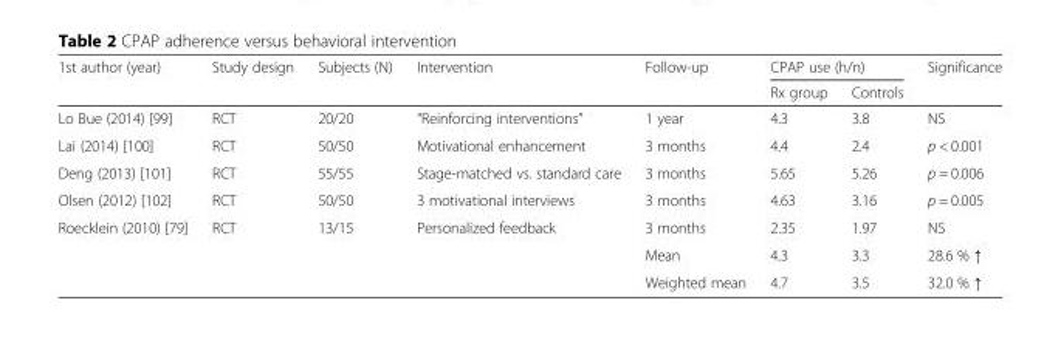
<table><thead><tr><td rowspan="2">1st author (year)</td><td rowspan="2">Study design</td><td rowspan="2">Subjects (N)</td><td rowspan="2">Intervention</td><td rowspan="2">Follow-up</td><td colspan="2">CPAP use (h/n)</td><td rowspan="2">Significance</td></tr><tr><td>Rx group</td><td>Controls</td></tr></thead><tbody><tr><td>Lo Bue (2014) [99]</td><td>RCT</td><td>20/20</td><td>“Reinforcing interventions”</td><td>1 year</td><td>4.3</td><td>3.8</td><td>NS</td></tr><tr><td>Lai (2014) [100]</td><td>RCT</td><td>50/50</td><td>Motivational enhancement</td><td>3 months</td><td>4.4</td><td>2.4</td><td>p &lt; 0.001</td></tr><tr><td>Deng (2013) [101]</td><td>RCT</td><td>55/55</td><td>Stage-matched vs. standard care</td><td>3 months</td><td>5.65</td><td>5.26</td><td>p = 0.006</td></tr><tr><td>Olsen (2012) [102]</td><td>RCT</td><td>50/50</td><td>3 motivational interviews</td><td>3 months</td><td>4.63</td><td>3.16</td><td>p = 0.005</td></tr><tr><td rowspan="3">Roecklein (2010) [79]</td><td>RCT</td><td>13/15</td><td>Personalized feedback</td><td>3 months</td><td>2.35</td><td>1.97</td><td>NS</td></tr><tr><td></td><td></td><td></td><td>Mean</td><td>4.3</td><td>3.3</td><td>28.6 % ↑</td></tr><tr><td></td><td></td><td></td><td>Weighted mean</td><td>4.7</td><td>3.5</td><td>32.0 % ↑</td></tr></tbody></table>